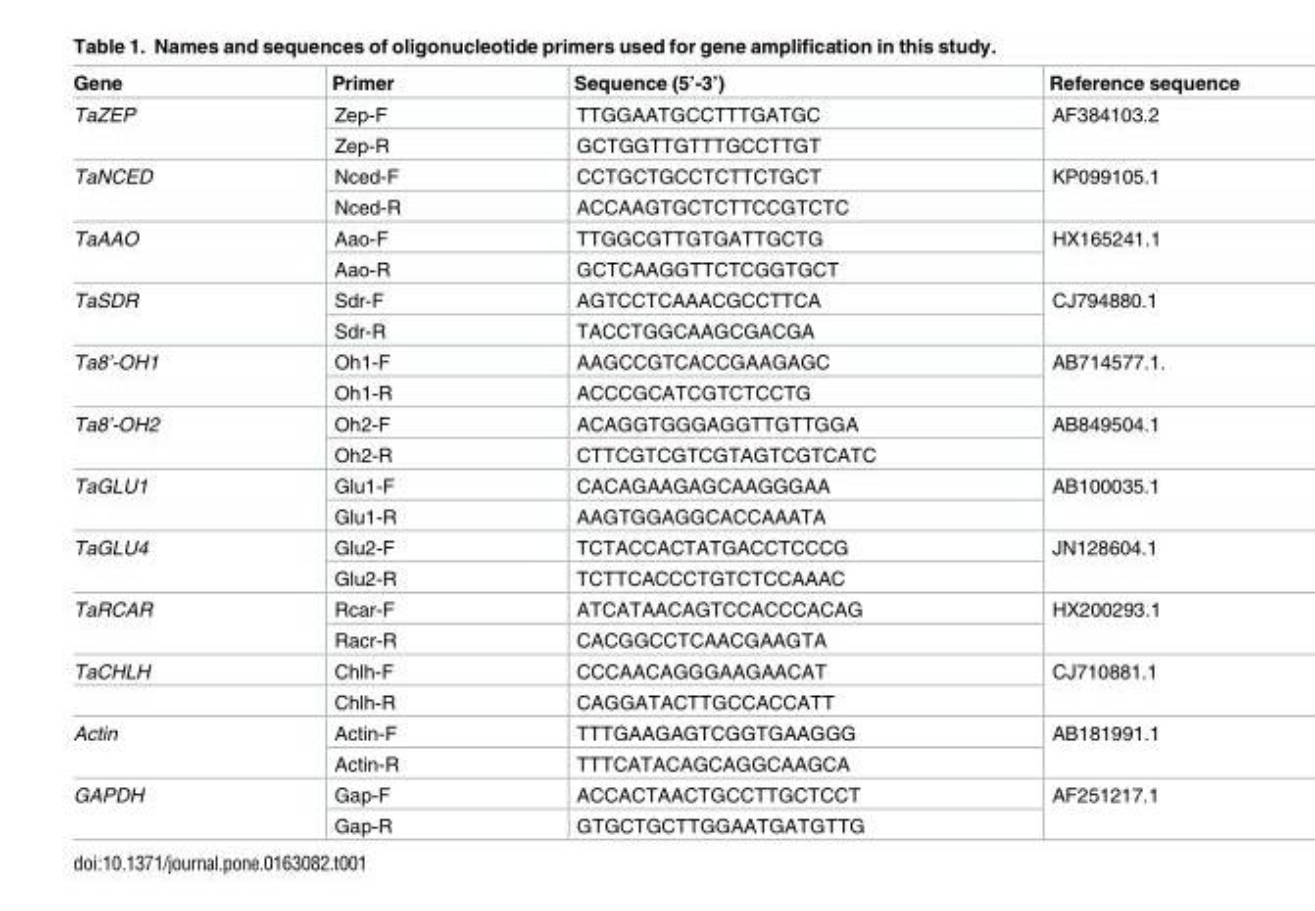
<table><thead><tr><td>Gene</td><td>Primer</td><td>Sequence (5’-3’)</td><td>Reference sequence</td></tr></thead><tbody><tr><td rowspan="2">TaZEP</td><td>Zep-F</td><td>TTGGAATGCCTTTGATGC</td><td rowspan="2">AF384103.2</td></tr><tr><td>Zep-R</td><td>GCTGGTTGTTTGCCTTGT</td></tr><tr><td rowspan="2">TaNCED</td><td>Nced-F</td><td>CCTGCTGCCTCTTCTGCT</td><td rowspan="2">KP099105.1</td></tr><tr><td>Nced-R</td><td>ACCAAGTGCTCTTCCGTCTC</td></tr><tr><td rowspan="2">TaAAO</td><td>Aao-F</td><td>TTGGCGTTGTGATTGCTG</td><td rowspan="2">HX165241.1</td></tr><tr><td>Aao-R</td><td>GCTCAAGGTTCTCGGTGCT</td></tr><tr><td rowspan="2">TaSDR</td><td>Sdr-F</td><td>AGTCCTCAAACGCCTTCA</td><td rowspan="2">CJ794880.1</td></tr><tr><td>Sdr-R</td><td>TACCTGGCAAGCGACGA</td></tr><tr><td rowspan="2">Ta8’-OH1</td><td>Oh1-F</td><td>AAGCCGTCACCGAAGAGC</td><td rowspan="2">AB714577.1.</td></tr><tr><td>Oh1-R</td><td>ACCCGCATCGTCTCCTG</td></tr><tr><td rowspan="2">Ta8’-OH2</td><td>Oh2-F</td><td>ACAGGTGGGAGGTTGTTGGA</td><td rowspan="2">AB849504.1</td></tr><tr><td>Oh2-R</td><td>CTTCGTCGTCGTAGTCGTCATC</td></tr><tr><td rowspan="2">TaGLU1</td><td>Glu1-F</td><td>CACAGAAGAGCAAGGGAA</td><td rowspan="2">AB100035.1</td></tr><tr><td>Glu1-R</td><td>AAGTGGAGGCACCAAATA</td></tr><tr><td rowspan="2">TaGLU4</td><td>Glu2-F</td><td>TCTACCACTATGACCTCCCG</td><td rowspan="2">JN128604.1</td></tr><tr><td>Glu2-R</td><td>TCTTCACCCTGTCTCCAAAC</td></tr><tr><td rowspan="2">TaRCAR</td><td>Rcar-F</td><td>ATCATAACAGTCCACCCACAG</td><td rowspan="2">HX200293.1</td></tr><tr><td>Racr-R</td><td>CACGGCCTCAACGAAGTA</td></tr><tr><td rowspan="2">TaCHLH</td><td>Chlh-F</td><td>CCCAACAGGGAAGAACAT</td><td rowspan="2">CJ710881.1</td></tr><tr><td>Chlh-R</td><td>CAGGATACTTGCCACCATT</td></tr><tr><td rowspan="2">Actin</td><td>Actin-F</td><td>TTTGAAGAGTCGGTGAAGGG</td><td rowspan="2">AB181991.1</td></tr><tr><td>Actin-R</td><td>TTTCATACAGCAGGCAAGCA</td></tr><tr><td rowspan="2">GAPDH</td><td>Gap-F</td><td>ACCACTAACTGCCTTGCTCCT</td><td rowspan="2">AF251217.1</td></tr><tr><td>Gap-R</td><td>GTGCTGCTTGGAATGATGTTG</td></tr></tbody></table>